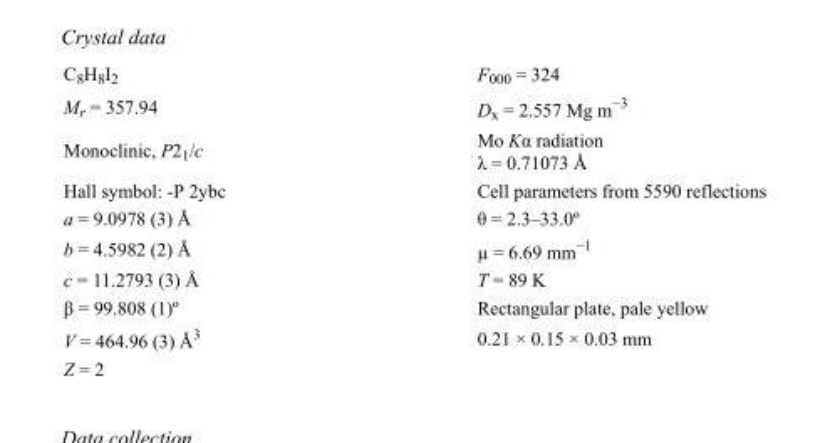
<table><tbody><tr><td>C<sub>8</sub>H<sub>8</sub>I<sub>2</sub></td><td>F000 = 324</td></tr><tr><td>M<sub>r</sub> = 357.94</td><td>D<sub>x</sub> = 2.557 Mg m<sup>−3</sup></td></tr><tr><td>Monoclinic, P2<sub>1</sub>/c</td><td>Mo Kα radiation λ = 0.71073 Å</td></tr><tr><td>Hall symbol: -P 2ybc</td><td>Cell parameters from 5590 reflections</td></tr><tr><td>a = 9.0978 (3) Å</td><td>θ = 2.3–33.0º</td></tr><tr><td>b = 4.5982 (2) Å</td><td>µ = 6.69 mm<sup>−1</sup></td></tr><tr><td>c = 11.2793 (3) Å</td><td>T = 89 K</td></tr><tr><td>β = 99.808 (1)º</td><td>Rectangular plate, pale yellow</td></tr><tr><td>V = 464.96 (3) Å<sup>3</sup></td><td>0.21 × 0.15 × 0.03 mm</td></tr><tr><td>Z = 2</td><td></td></tr></tbody></table>